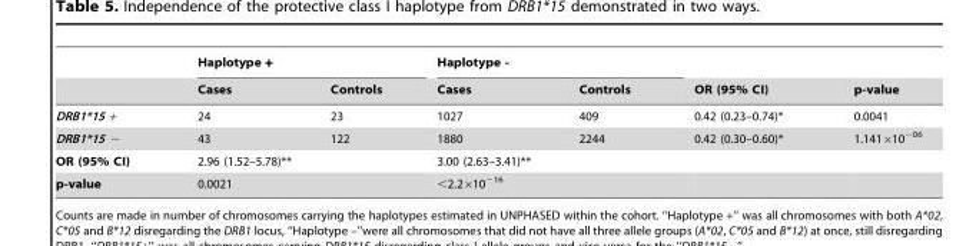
<table><thead><tr><td rowspan="2"></td><td colspan="2">Haplotype +</td><td colspan="2">Haplotype -</td><td rowspan="2">OR (95% CI)</td><td rowspan="2">p-value</td></tr><tr><td>Cases</td><td>Controls</td><td>Cases</td><td>Controls</td></tr></thead><tbody><tr><td>DRB1*15 +</td><td>24</td><td>23</td><td>1027</td><td>409</td><td>0.42 (0.23–0.74)*</td><td>0.0041</td></tr><tr><td>DRB1*15 −</td><td>43</td><td>122</td><td>1880</td><td>2244</td><td>0.42 (0.30–0.60)*</td><td>1.141×10<sup>−06</sup></td></tr><tr><td>OR (95% CI)</td><td colspan="2">2.96 (1.52–5.78)**</td><td colspan="2">3.00 (2.63–3.41)**</td><td></td><td></td></tr><tr><td>p-value</td><td colspan="2">0.0021</td><td colspan="2">&lt;2.2×10<sup>−16</sup></td><td></td><td></td></tr></tbody></table>